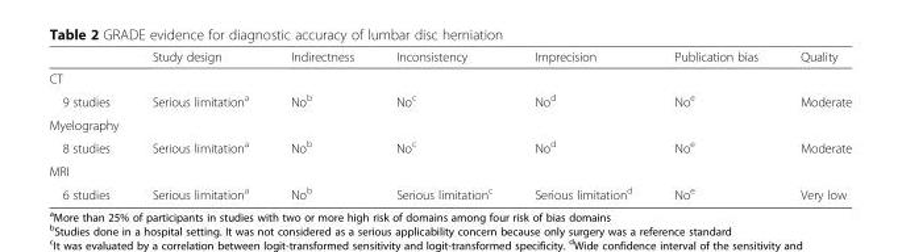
<table><thead><tr><td></td><td>Study design</td><td>Indirectness</td><td>Inconsistency</td><td>Imprecision</td><td>Publication bias</td><td>Quality</td></tr></thead><tbody><tr><td colspan="7">CT</td></tr><tr><td>9 studies</td><td>Serious limitation<sup>a</sup></td><td>No<sup>b</sup></td><td>No<sup>c</sup></td><td>No<sup>d</sup></td><td>No<sup>e</sup></td><td>Moderate</td></tr><tr><td colspan="7">Myelography</td></tr><tr><td>8 studies</td><td>Serious limitation<sup>a</sup></td><td>No<sup>b</sup></td><td>No<sup>c</sup></td><td>No<sup>d</sup></td><td>No<sup>e</sup></td><td>Moderate</td></tr><tr><td colspan="7">MRI</td></tr><tr><td>6 studies</td><td>Serious limitation<sup>a</sup></td><td>No<sup>b</sup></td><td>Serious limitation<sup>c</sup></td><td>Serious limitation<sup>d</sup></td><td>No<sup>e</sup></td><td>Very low</td></tr></tbody></table>